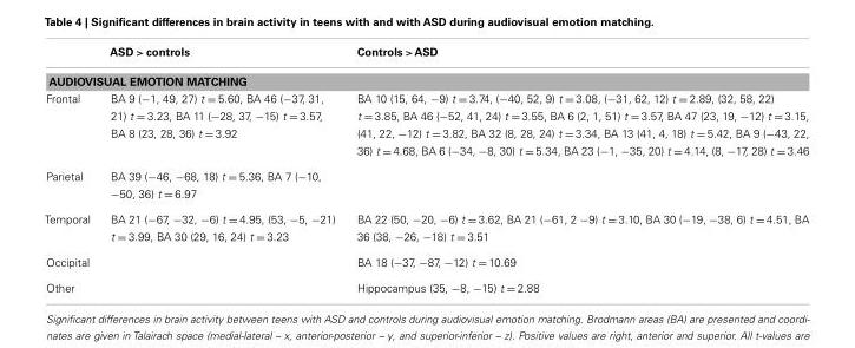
<table><thead><tr><td></td><td>ASD &gt; controls</td><td>Controls &gt;ASD</td></tr></thead><tbody><tr><td colspan="3">AUDIOVISUAL EMOTION MATCHING</td></tr><tr><td>Frontal</td><td>BA 9 (−1, 49, 27) t = 5.60, BA 46 (−37, 31, 21) t = 3.23, BA 11 (−28, 37, −15) t = 3.57, BA 8 (23, 28, 36) t = 3.92</td><td>BA 10 (15, 64, −9) t = 3.74, (−40, 52, 9) t = 3.08, (−31, 62, 12) t = 2.89, (32, 58, 22) t = 3.85, BA 46 (−52, 41, 24) t = 3.55, BA 6 (2, 1, 51) t = 3.57, BA 47 (23, 19, −12) t = 3.15, (41, 22, −12) t = 3.82, BA 32 (8, 28, 24) t = 3.34, BA 13 (41, 4, 18) t = 5.42, BA 9 (−43, 22, 36) t = 4.68, BA 6 (−34, −8, 30) t = 5.34, BA 23 (−1, −35, 20) t = 4.14, (8, −17, 28) t = 3.46</td></tr><tr><td>Parietal</td><td>BA 39 (−46, −68, 18) t = 5.36, BA 7 (−10, −50, 36) t = 6.97</td><td></td></tr><tr><td>Temporal</td><td>BA 21 (−67, −32, −6) t = 4.95, (53, −5, −21) t = 3.99, BA 30 (29, 16, 24) t = 3.23</td><td>BA 22 (50, −20, −6) t = 3.62, BA 21 (−61, 2 −9) t = 3.10, BA 30 (−19, −38, 6) t = 4.51, BA 36 (38, −26, −18) t = 3.51</td></tr><tr><td>Occipital</td><td></td><td>BA 18 (−37, −87, −12) t = 10.69</td></tr><tr><td>Other</td><td></td><td>Hippocampus (35, −8, −15) t = 2.88</td></tr></tbody></table>